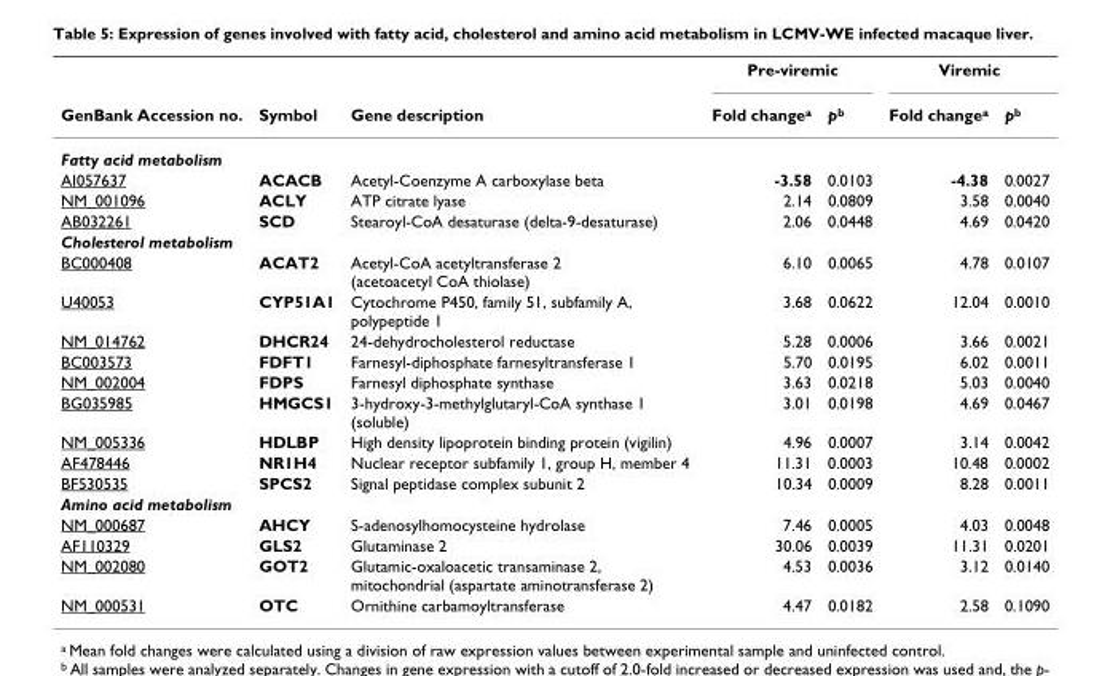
<table><thead><tr><td rowspan="2">GenBank Accession no.</td><td rowspan="2">Symbol</td><td rowspan="2">Gene description</td><td colspan="2">Pre-viremic</td><td colspan="2">Viremic</td></tr><tr><td>Fold change<sup>a</sup></td><td>p<sup>b</sup></td><td>Fold change<sup>a</sup></td><td>p<sup>b</sup></td></tr></thead><tbody><tr><td colspan="7">Fatty acid metabolism</td></tr><tr><td>AI057637</td><td>ACACB</td><td>Acetyl-Coenzyme A carboxylase beta</td><td>-3.58</td><td>0.0103</td><td>-4.38</td><td>0.0027</td></tr><tr><td>NM_001096</td><td>ACLY</td><td>ATP citrate lyase</td><td>2.14</td><td>0.0809</td><td>3.58</td><td>0.0040</td></tr><tr><td>AB032261</td><td>SCD</td><td>Stearoyl-CoA desaturase (delta-9-desaturase)</td><td>2.06</td><td>0.0448</td><td>4.69</td><td>0.0420</td></tr><tr><td colspan="7">Cholesterol metabolism</td></tr><tr><td>BC000408</td><td>ACAT2</td><td>Acetyl-CoA acetyltransferase 2 (acetoacetyl CoA thiolase)</td><td>6.10</td><td>0.0065</td><td>4.78</td><td>0.0107</td></tr><tr><td>U40053</td><td>CYP51A1</td><td>Cytochrome P450, family 51, subfamily A, polypeptide 1</td><td>3.68</td><td>0.0622</td><td>12.04</td><td>0.0010</td></tr><tr><td>NM_014762</td><td>DHCR24</td><td>24-dehydrocholesterol reductase</td><td>5.28</td><td>0.0006</td><td>3.66</td><td>0.0021</td></tr><tr><td>BC003573</td><td>FDFT1</td><td>Farnesyl-diphosphate farnesyltransferase 1</td><td>5.70</td><td>0.0195</td><td>6.02</td><td>0.0011</td></tr><tr><td>NM_002004</td><td>FDPS</td><td>Farnesyl diphosphate synthase</td><td>3.63</td><td>0.0218</td><td>5.03</td><td>0.0040</td></tr><tr><td>BG035985</td><td>HMGCS1</td><td>3-hydroxy-3-methylglutaryl-CoA synthase 1 (soluble)</td><td>3.01</td><td>0.0198</td><td>4.69</td><td>0.0467</td></tr><tr><td>NM_005336</td><td>HDLBP</td><td>High density lipoprotein binding protein (vigilin)</td><td>4.96</td><td>0.0007</td><td>3.14</td><td>0.0042</td></tr><tr><td>AF478446</td><td>NR1H4</td><td>Nuclear receptor subfamily 1, group H, member 4</td><td>11.31</td><td>0.0003</td><td>10.48</td><td>0.0002</td></tr><tr><td>BF530535</td><td>SPCS2</td><td>Signal peptidase complex subunit 2</td><td>10.34</td><td>0.0009</td><td>8.28</td><td>0.0011</td></tr><tr><td colspan="7">Amino acid metabolism</td></tr><tr><td>NM_000687</td><td>AHCY</td><td>S-adenosylhomocysteine hydrolase</td><td>7.46</td><td>0.0005</td><td>4.03</td><td>0.0048</td></tr><tr><td>AF110329</td><td>GLS2</td><td>Glutaminase 2</td><td>30.06</td><td>0.0039</td><td>11.31</td><td>0.0201</td></tr><tr><td>NM_002080</td><td>GOT2</td><td>Glutamic-oxaloacetic transaminase 2, mitochondrial (aspartate aminotransferase 2)</td><td>4.53</td><td>0.0036</td><td>3.12</td><td>0.0140</td></tr><tr><td>NM_000531</td><td>OTC</td><td>Ornithine carbamoyltransferase</td><td>4.47</td><td>0.0182</td><td>2.58</td><td>0.1090</td></tr></tbody></table>